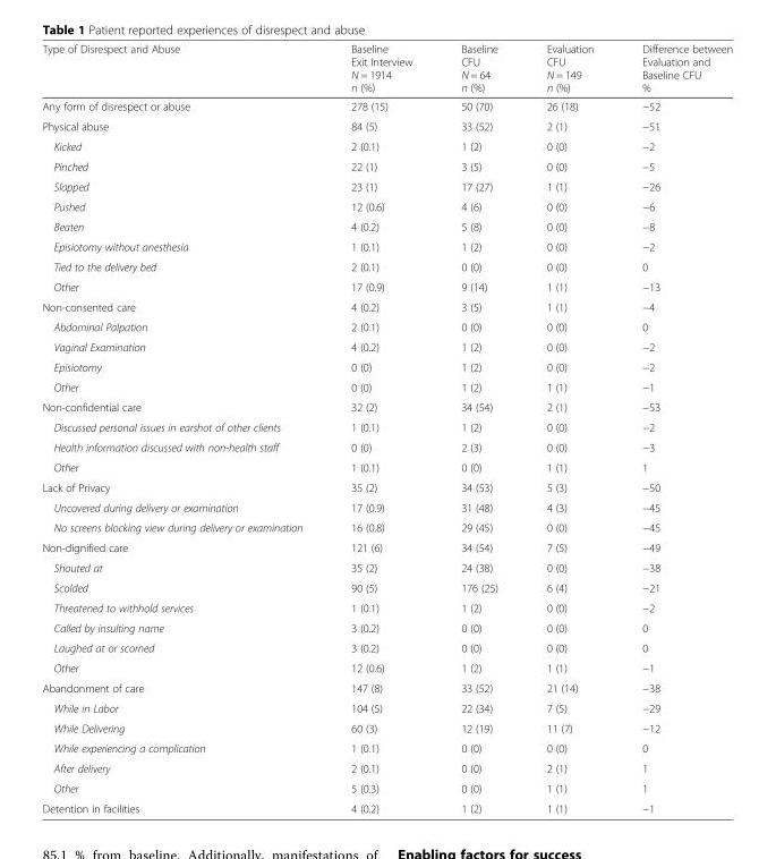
<table><thead><tr><td>Type of Disrespect and Abuse</td><td>Baseline Exit Interview N = 1914 n (%)</td><td>Baseline CFU N = 64 n (%)</td><td>Evaluation CFU N = 149 n (%)</td><td>Difference between Evaluation and Baseline CFU %</td></tr></thead><tbody><tr><td>Any form of disrespect or abuse</td><td>278 (15)</td><td>50 (70)</td><td>26 (18)</td><td>−52</td></tr><tr><td>Physical abuse</td><td>84 (5)</td><td>33 (52)</td><td>2 (1)</td><td>−51</td></tr><tr><td>Kicked</td><td>2 (0.1)</td><td>1 (2)</td><td>0 (0)</td><td>−2</td></tr><tr><td>Pinched</td><td>22 (1)</td><td>3 (5)</td><td>0 (0)</td><td>−5</td></tr><tr><td>Slapped</td><td>23 (1)</td><td>17 (27)</td><td>1 (1)</td><td>−26</td></tr><tr><td>Pushed</td><td>12 (0.6)</td><td>4 (6)</td><td>0 (0)</td><td>−6</td></tr><tr><td>Beaten</td><td>4 (0.2)</td><td>5 (8)</td><td>0 (0)</td><td>−8</td></tr><tr><td>Episiotomy without anesthesia</td><td>1 (0.1)</td><td>1 (2)</td><td>0 (0)</td><td>−2</td></tr><tr><td>Tied to the delivery bed</td><td>2 (0.1)</td><td>0 (0)</td><td>0 (0)</td><td>0</td></tr><tr><td>Other</td><td>17 (0.9)</td><td>9 (14)</td><td>1 (1)</td><td>−13</td></tr><tr><td>Non-consented care</td><td>4 (0.2)</td><td>3 (5)</td><td>1 (1)</td><td>−4</td></tr><tr><td>Abdominal Palpation</td><td>2 (0.1)</td><td>0 (0)</td><td>0 (0)</td><td>0</td></tr><tr><td>Vaginal Examination</td><td>4 (0.2)</td><td>1 (2)</td><td>0 (0)</td><td>−2</td></tr><tr><td>Episiotomy</td><td>0 (0)</td><td>1 (2)</td><td>0 (0)</td><td>−2</td></tr><tr><td>Other</td><td>0 (0)</td><td>1 (2)</td><td>1 (1)</td><td>−1</td></tr><tr><td>Non-confidential care</td><td>32 (2)</td><td>34 (54)</td><td>2 (1)</td><td>−53</td></tr><tr><td>Discussed personal issues in earshot of other clients</td><td>1 (0.1)</td><td>1 (2)</td><td>0 (0)</td><td>−2</td></tr><tr><td>Health information discussed with non-health staff</td><td>0 (0)</td><td>2 (3)</td><td>0 (0)</td><td>−3</td></tr><tr><td>Other</td><td>1 (0.1)</td><td>0 (0)</td><td>1 (1)</td><td>1</td></tr><tr><td>Lack of Privacy</td><td>35 (2)</td><td>34 (53)</td><td>5 (3)</td><td>−50</td></tr><tr><td>Uncovered during delivery or examination</td><td>17 (0.9)</td><td>31 (48)</td><td>4 (3)</td><td>−45</td></tr><tr><td>No screens blocking view during delivery or examination</td><td>16 (0.8)</td><td>29 (45)</td><td>0 (0)</td><td>−45</td></tr><tr><td>Non-dignified care</td><td>121 (6)</td><td>34 (54)</td><td>7 (5)</td><td>−49</td></tr><tr><td>Shouted at</td><td>35 (2)</td><td>24 (38)</td><td>0 (0)</td><td>−38</td></tr><tr><td>Scolded</td><td>90 (5)</td><td>176 (25)</td><td>6 (4)</td><td>−21</td></tr><tr><td>Threatened to withhold services</td><td>1 (0.1)</td><td>1 (2)</td><td>0 (0)</td><td>−2</td></tr><tr><td>Called by insulting name</td><td>3 (0.2)</td><td>0 (0)</td><td>0 (0)</td><td>0</td></tr><tr><td>Laughed at or scorned</td><td>3 (0.2)</td><td>0 (0)</td><td>0 (0)</td><td>0</td></tr><tr><td>Other</td><td>12 (0.6)</td><td>1 (2)</td><td>1 (1)</td><td>−1</td></tr><tr><td>Abandonment of care</td><td>147 (8)</td><td>33 (52)</td><td>21 (14)</td><td>−38</td></tr><tr><td>While in Labor</td><td>104 (5)</td><td>22 (34)</td><td>7 (5)</td><td>−29</td></tr><tr><td>While Delivering</td><td>60 (3)</td><td>12 (19)</td><td>11 (7)</td><td>−12</td></tr><tr><td>While experiencing a complication</td><td>1 (0.1)</td><td>0 (0)</td><td>0 (0)</td><td>0</td></tr><tr><td>After delivery</td><td>2 (0.1)</td><td>0 (0)</td><td>2 (1)</td><td>1</td></tr><tr><td>Other</td><td>5 (0.3)</td><td>0 (0)</td><td>1 (1)</td><td>1</td></tr><tr><td>Detention in facilities</td><td>4 (0.2)</td><td>1 (2)</td><td>1 (1)</td><td>−1</td></tr></tbody></table>